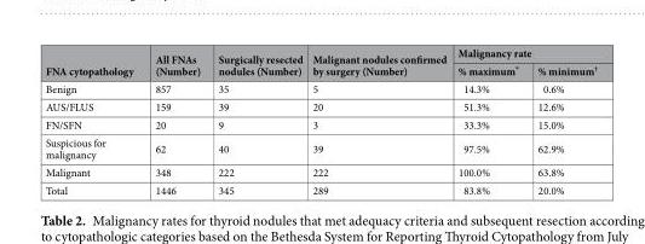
<table><thead><tr><td rowspan="2">FNA cytopathology</td><td rowspan="2">All FNAs (Number)</td><td rowspan="2">Surgically resected nodules (Number)</td><td rowspan="2">Malignant nodules confirmed by surgery (Number)</td><td colspan="2">Malignancy rate</td></tr><tr><td>% maximum*</td><td>% minimum<sup>†</sup></td></tr></thead><tbody><tr><td>Benign</td><td>857</td><td>35</td><td>5</td><td>14.3%</td><td>0.6%</td></tr><tr><td>AUS/FLUS</td><td>159</td><td>39</td><td>20</td><td>51.3%</td><td>12.6%</td></tr><tr><td>FN/SFN</td><td>20</td><td>9</td><td>3</td><td>33.3%</td><td>15.0%</td></tr><tr><td>Suspicious for malignancy</td><td>62</td><td>40</td><td>39</td><td>97.5%</td><td>62.9%</td></tr><tr><td>Malignant</td><td>348</td><td>222</td><td>222</td><td>100.0%</td><td>63.8%</td></tr><tr><td>Total</td><td>1446</td><td>345</td><td>289</td><td>83.8%</td><td>20.0%</td></tr></tbody></table>